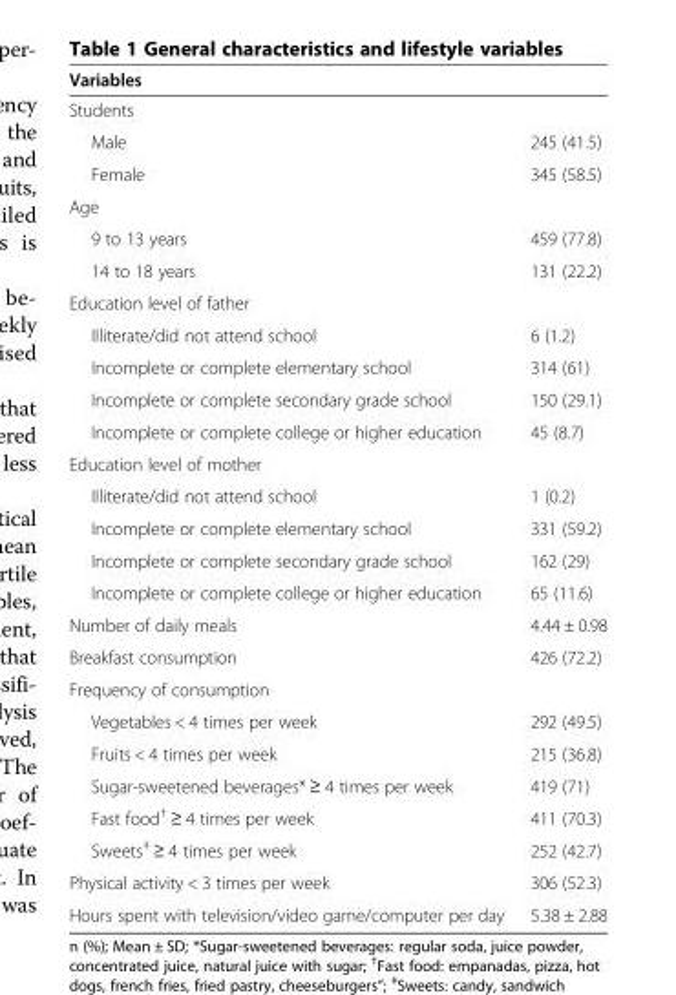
<table><thead><tr><td>Variables</td><td></td></tr></thead><tbody><tr><td colspan="2">Students</td></tr><tr><td>Male</td><td>245 (41.5)</td></tr><tr><td>Female</td><td>345 (58.5)</td></tr><tr><td colspan="2">Age</td></tr><tr><td>9 to 13 years</td><td>459 (77.8)</td></tr><tr><td>14 to 18 years</td><td>131 (22.2)</td></tr><tr><td colspan="2">Education level of father</td></tr><tr><td>Illiterate/did not attend school</td><td>6 (1.2)</td></tr><tr><td>Incomplete or complete elementary school</td><td>314 (61)</td></tr><tr><td>Incomplete or complete secondary grade school</td><td>150 (29.1)</td></tr><tr><td>Incomplete or complete college or higher education</td><td>45 (8.7)</td></tr><tr><td colspan="2">Education level of mother</td></tr><tr><td>Illiterate/did not attend school</td><td>1 (0.2)</td></tr><tr><td>Incomplete or complete elementary school</td><td>331 (59.2)</td></tr><tr><td>Incomplete or complete secondary grade school</td><td>162 (29)</td></tr><tr><td>Incomplete or complete college or higher education</td><td>65 (11.6)</td></tr><tr><td>Number of daily meals</td><td>4.44 ± 0.98</td></tr><tr><td>Breakfast consumption</td><td>426 (72.2)</td></tr><tr><td colspan="2">Frequency of consumption</td></tr><tr><td>Vegetables &lt; 4 times per week</td><td>292 (49.5)</td></tr><tr><td>Fruits &lt; 4 times per week</td><td>215 (36.8)</td></tr><tr><td>Sugar-sweetened beverages* ≥ 4 times per week</td><td>419 (71)</td></tr><tr><td>Fast food<sup>†</sup> ≥ 4 times per week</td><td>411 (70.3)</td></tr><tr><td>Sweets<sup>‡</sup> ≥ 4 times per week</td><td>252 (42.7)</td></tr><tr><td>Physical activity &lt; 3 times per week</td><td>306 (52.3)</td></tr><tr><td>Hours spent with television/video game/computer per day</td><td>5.38 ± 2.88</td></tr></tbody></table>